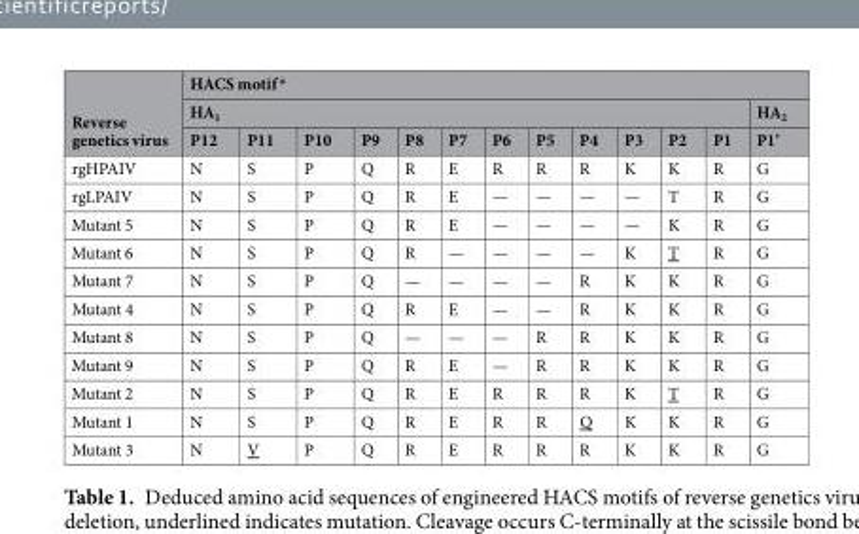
<table><thead><tr><td rowspan="3">Reverse genetics virus</td><td colspan="13">HACS motif <sup>a</sup></td></tr><tr><td colspan="12">HA<sub>1</sub></td><td rowspan="2">HA<sub>2</sub> P1’</td></tr><tr><td>P12</td><td>P11</td><td>P10</td><td>P9</td><td>P8</td><td>P7</td><td>P6</td><td>P5</td><td>P4</td><td>P3</td><td>P2</td><td>P1</td></tr></thead><tbody><tr><td>rgHPAIV</td><td>N</td><td>S</td><td>P</td><td>Q</td><td>R</td><td>E</td><td>R</td><td>R</td><td>R</td><td>K</td><td>K</td><td>R</td><td>G</td></tr><tr><td>rgLPAIV</td><td>N</td><td>S</td><td>P</td><td>Q</td><td>R</td><td>E</td><td>—</td><td>—</td><td>—</td><td>—</td><td>T</td><td>R</td><td>G</td></tr><tr><td>Mutant 5</td><td>N</td><td>S</td><td>P</td><td>Q</td><td>R</td><td>E</td><td>—</td><td>—</td><td>—</td><td>—</td><td>K</td><td>R</td><td>G</td></tr><tr><td>Mutant 6</td><td>N</td><td>S</td><td>P</td><td>Q</td><td>R</td><td>—</td><td>—</td><td>—</td><td>—</td><td>K</td><td>T</td><td>R</td><td>G</td></tr><tr><td>Mutant 7</td><td>N</td><td>S</td><td>P</td><td>Q</td><td>—</td><td>—</td><td>—</td><td>—</td><td>R</td><td>K</td><td>K</td><td>R</td><td>G</td></tr><tr><td>Mutant 4</td><td>N</td><td>S</td><td>P</td><td>Q</td><td>R</td><td>E</td><td>—</td><td>—</td><td>R</td><td>K</td><td>K</td><td>R</td><td>G</td></tr><tr><td>Mutant 8</td><td>N</td><td>S</td><td>P</td><td>Q</td><td>—</td><td>—</td><td>—</td><td>R</td><td>R</td><td>K</td><td>K</td><td>R</td><td>G</td></tr><tr><td>Mutant 9</td><td>N</td><td>S</td><td>P</td><td>Q</td><td>R</td><td>E</td><td>—</td><td>R</td><td>R</td><td>K</td><td>K</td><td>R</td><td>G</td></tr><tr><td>Mutant 2</td><td>N</td><td>S</td><td>P</td><td>Q</td><td>R</td><td>E</td><td>R</td><td>R</td><td>R</td><td>K</td><td>T</td><td>R</td><td>G</td></tr><tr><td>Mutant 1</td><td>N</td><td>S</td><td>P</td><td>Q</td><td>R</td><td>E</td><td>R</td><td>R</td><td>Q</td><td>K</td><td>K</td><td>R</td><td>G</td></tr><tr><td>Mutant 3</td><td>N</td><td>V</td><td>P</td><td>Q</td><td>R</td><td>E</td><td>R</td><td>R</td><td>R</td><td>K</td><td>K</td><td>R</td><td>G</td></tr></tbody></table>